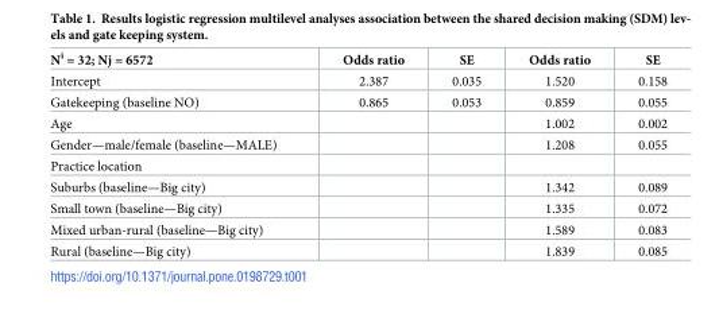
<table><thead><tr><td>N<sup>i</sup> = 32; Nj = 6572</td><td>Odds ratio</td><td>SE</td><td>Odds ratio</td><td>SE</td></tr></thead><tbody><tr><td>Intercept</td><td>2.387</td><td>0.035</td><td>1.520</td><td>0.158</td></tr><tr><td>Gatekeeping (baseline NO)</td><td>0.865</td><td>0.053</td><td>0.859</td><td>0.055</td></tr><tr><td>Age</td><td></td><td></td><td>1.002</td><td>0.002</td></tr><tr><td>Gender—male/female (baseline—MALE)</td><td></td><td></td><td>1.208</td><td>0.055</td></tr><tr><td colspan="5">Practice location</td></tr><tr><td>Suburbs (baseline—Big city)</td><td></td><td></td><td>1.342</td><td>0.089</td></tr><tr><td>Small town (baseline—Big city)</td><td></td><td></td><td>1.335</td><td>0.072</td></tr><tr><td>Mixed urban-rural (baseline—Big city)</td><td></td><td></td><td>1.589</td><td>0.083</td></tr><tr><td>Rural (baseline—Big city)</td><td></td><td></td><td>1.839</td><td>0.085</td></tr></tbody></table>